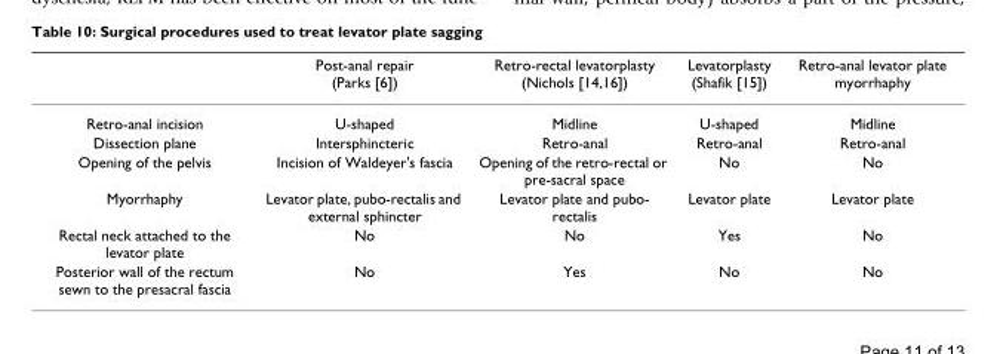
<table><thead><tr><td></td><td>Post-anal repair (Parks [6])</td><td>Retro-rectal levatorplasty (Nichols [14,16])</td><td>Levatorplasty (Shafik [15])</td><td>Retro-anal levator plate myorrhaphy</td></tr></thead><tbody><tr><td>Retro-anal incision</td><td>U-shaped</td><td>Midline</td><td>U-shaped</td><td>Midline</td></tr><tr><td>Dissection plane</td><td>Intersphincteric</td><td>Retro-anal</td><td>Retro-anal</td><td>Retro-anal</td></tr><tr><td>Opening of the pelvis</td><td>Incision of Waldeyer&#x27;s fascia</td><td>Opening of the retro-rectal or pre-sacral space</td><td>No</td><td>No</td></tr><tr><td>Myorrhaphy</td><td>Levator plate, pubo-rectalis and external sphincter</td><td>Levator plate and pubo- rectalis</td><td>Levator plate</td><td>Levator plate</td></tr><tr><td>Rectal neck attached to the levator plate</td><td>No</td><td>No</td><td>Yes</td><td>No</td></tr><tr><td>Posterior wall of the rectum sewn to the presacral fascia</td><td>No</td><td>Yes</td><td>No</td><td>No</td></tr></tbody></table>